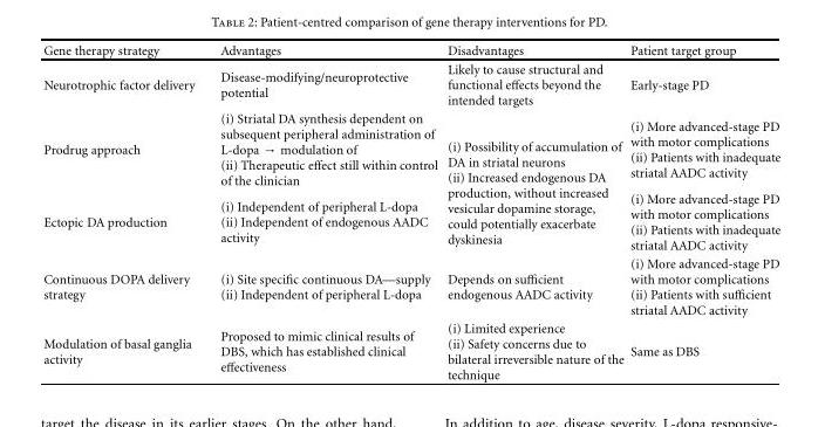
<table><thead><tr><td>Gene therapy strategy</td><td>Advantages</td><td>Disadvantages</td><td>Patient target group</td></tr></thead><tbody><tr><td>Neurotrophic factor delivery</td><td>Disease-modifying/neuroprotective potential</td><td>Likely to cause structural and functional effects beyond the intended targets</td><td>Early-stage PD</td></tr><tr><td>Prodrug approach</td><td>(i) Striatal DA synthesis dependent on subsequent peripheral administration of L-dopa → modulation of (ii) Therapeutic effect still within control of the clinician</td><td rowspan="2">(i) Possibility of accumulation of DA in striatal neurons (ii) Increased endogenous DA production, without increased vesicular dopamine storage, could potentially exacerbate dyskinesia</td><td>(i) More advanced-stage PD with motor complications (ii) Patients with inadequate striatal AADC activity</td></tr><tr><td>Ectopic DA production</td><td>(i) Independent of peripheral L-dopa (ii) Independent of endogenous AADC activity</td><td>(i) More advanced-stage PD with motor complications (ii) Patients with inadequate striatal AADC activity</td></tr><tr><td>Continuous DOPA delivery strategy</td><td>(i) Site specific continuous DA—supply (ii) Independent of peripheral L-dopa</td><td>Depends on sufficient endogenous AADC activity</td><td>(i) More advanced-stage PD with motor complications (ii) Patients with sufficient striatal AADC activity</td></tr><tr><td>Modulation of basal ganglia activity</td><td>Proposed to mimic clinical results of DBS, which has established clinical effectiveness</td><td>(i) Limited experience (ii) Safety concerns due to bilateral irreversible nature of the technique</td><td>Same as DBS</td></tr></tbody></table>